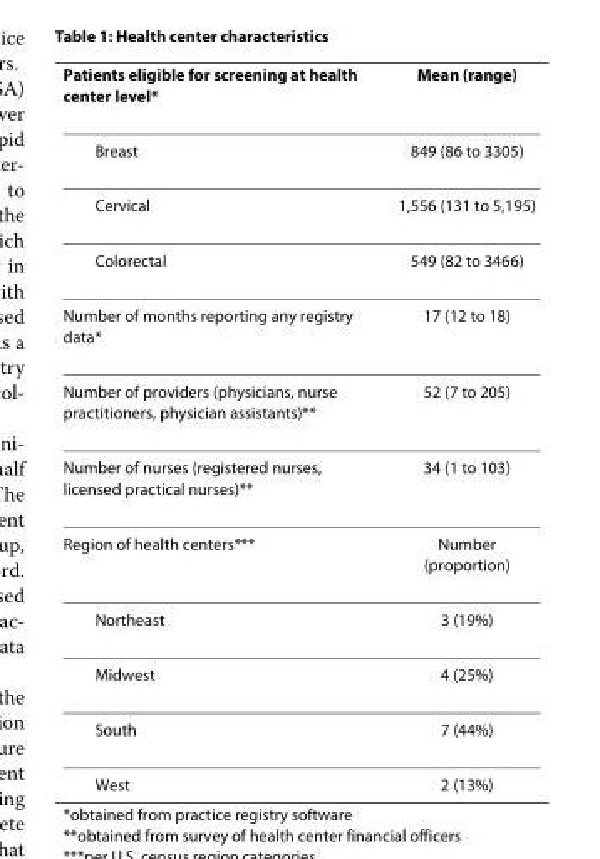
<table><thead><tr><td>Patients eligible for screening at health center level*</td><td>Mean (range)</td></tr></thead><tbody><tr><td>Breast</td><td>849 (86 to 3305)</td></tr><tr><td>Cervical</td><td>1,556 (131 to 5,195)</td></tr><tr><td>Colorectal</td><td>549 (82 to 3466)</td></tr><tr><td>Number of months reporting any registry data*</td><td>17 (12 to 18)</td></tr><tr><td>Number of providers (physicians, nurse practitioners, physician assistants)**</td><td>52 (7 to 205)</td></tr><tr><td>Number of nurses (registered nurses, licensed practical nurses)**</td><td>34 (1 to 103)</td></tr><tr><td>Region of health centers***</td><td>Number (proportion)</td></tr><tr><td>Northeast</td><td>3 (19%)</td></tr><tr><td>Midwest</td><td>4 (25%)</td></tr><tr><td>South</td><td>7 (44%)</td></tr><tr><td>West</td><td>2 (13%)</td></tr></tbody></table>